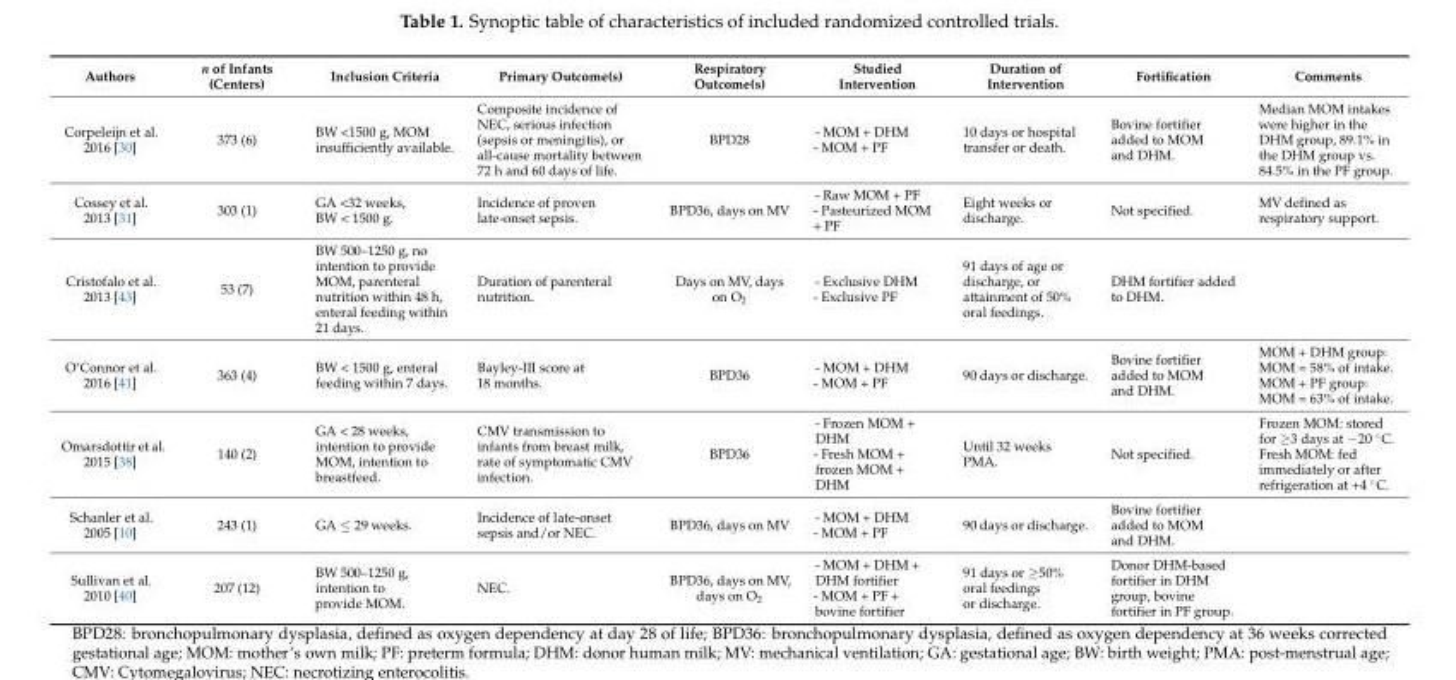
<table><thead><tr><td>Authors</td><td>n of Infants (Centers)</td><td>Inclusion Criteria</td><td>Primary Outcome(s)</td><td>Respiratory Outcome(s)</td><td>Studied Intervention</td><td>Duration of Intervention</td><td>Fortification</td><td>Comments</td></tr></thead><tbody><tr><td>Corpeleijn et al. 2016 [30]</td><td>373 (6)</td><td>BW &lt;1500 g, MOM insufficiently available.</td><td>Composite incidence of NEC, serious infection (sepsis or meningitis), or all-cause mortality between 72 h and 60 days of life.</td><td>BPD28</td><td>- MOM + DHM - MOM + PF</td><td>10 days or hospital transfer or death.</td><td>Bovine fortifier added to MOM and DHM.</td><td>Median MOM intakes were higher in the DHM group, 89.1% in the DHM group vs. 84.5% in the PF group.</td></tr><tr><td>Cossey et al. 2013 [31]</td><td>303 (1)</td><td>GA &lt;32 weeks, BW &lt; 1500 g.</td><td>Incidence of proven late-onset sepsis.</td><td>BPD36, days on MV</td><td>- Raw MOM + PF - Pasteurized MOM + PF</td><td>Eight weeks or discharge.</td><td>Not specified.</td><td>MV defined as respiratory support.</td></tr><tr><td>Cristofalo et al. 2013 [43]</td><td>53 (7)</td><td>BW 500–1250 g, no intention to provide MOM, parenteral nutrition within 48 h, enteral feeding within 21 days.</td><td>Duration of parenteral nutrition.</td><td>Days on MV, days on O<sub>2</sub></td><td>- Exclusive DHM - Exclusive PF</td><td>91 days of age or discharge, or attainment of 50% oral feedings.</td><td>DHM fortifier added to DHM.</td><td></td></tr><tr><td>O’Connor et al. 2016 [41]</td><td>363 (4)</td><td>BW &lt; 1500 g, enteral feeding within 7 days.</td><td>Bayley-III score at 18 months.</td><td>BPD36</td><td>- MOM + DHM - MOM + PF</td><td>90 days or discharge.</td><td>Bovine fortifier added to MOM and DHM.</td><td>MOM + DHM group: MOM = 58% of intake. MOM + PF group: MOM = 63% of intake.</td></tr><tr><td>Omarsdottir et al. 2015 [38]</td><td>140 (2)</td><td>GA &lt; 28 weeks, intention to provide MOM, intention to breastfeed.</td><td>CMV transmission to infants from breast milk, rate of symptomatic CMV infection.</td><td>BPD36</td><td>- Frozen MOM + DHM - Fresh MOM + frozen MOM + DHM</td><td>Until 32 weeks PMA.</td><td>Not specified.</td><td>Frozen MOM: stored for ≥3 days at −20 ◦C. Fresh MOM: fed immediately or after refrigeration at +4 ◦C.</td></tr><tr><td>Schanler et al. 2005 [10]</td><td>243 (1)</td><td>GA ≤ 29 weeks.</td><td>Incidence of late-onset sepsis and/or NEC.</td><td>BPD36, days on MV</td><td>- MOM + DHM - MOM + PF</td><td>90 days or discharge.</td><td>Bovine fortifier added to MOM and DHM.</td><td></td></tr><tr><td>Sullivan et al. 2010 [40]</td><td>207 (12)</td><td>BW 500–1250 g, intention to provide MOM.</td><td>NEC.</td><td>BPD36, days on MV, days on O<sub>2</sub></td><td>- MOM + DHM + DHM fortifier - MOM + PF + bovine fortifier</td><td>91 days or ≥50% oral feedings or discharge.</td><td>Donor DHM-based fortifier in DHM group, bovine fortifier in PF group.</td><td></td></tr></tbody></table>